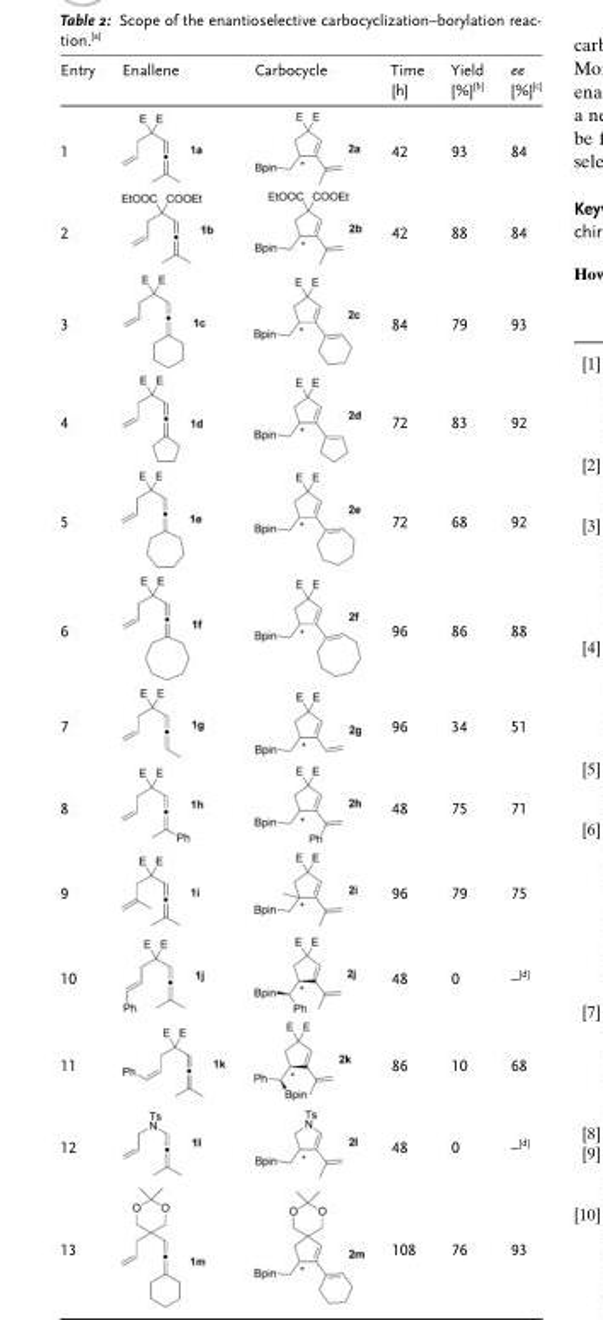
<table><thead><tr><td>Entry</td><td>Enallene</td><td>Carbocycle</td><td>Time [h]</td><td>Yield [%][b]</td><td>ee [%][c]</td></tr></thead><tbody><tr><td>1</td><td></td><td></td><td>42</td><td>93</td><td>84</td></tr><tr><td>2</td><td></td><td></td><td>42</td><td>88</td><td>84</td></tr><tr><td>3</td><td></td><td></td><td>84</td><td>79</td><td>93</td></tr><tr><td>4</td><td></td><td></td><td>72</td><td>83</td><td>92</td></tr><tr><td>5</td><td></td><td></td><td>72</td><td>68</td><td>92</td></tr><tr><td>6</td><td></td><td></td><td>96</td><td>86</td><td>88</td></tr><tr><td>7</td><td></td><td></td><td>96</td><td>34</td><td>51</td></tr><tr><td>8</td><td></td><td></td><td>48</td><td>75</td><td>71</td></tr><tr><td>9</td><td></td><td></td><td>96</td><td>79</td><td>75</td></tr><tr><td>10</td><td></td><td></td><td>48</td><td>0</td><td>–[d]</td></tr><tr><td>11</td><td></td><td></td><td>86</td><td>10</td><td>68</td></tr><tr><td>12</td><td></td><td></td><td>48</td><td>0</td><td>–[d]</td></tr><tr><td>13</td><td></td><td></td><td>108</td><td>76</td><td>93</td></tr></tbody></table>